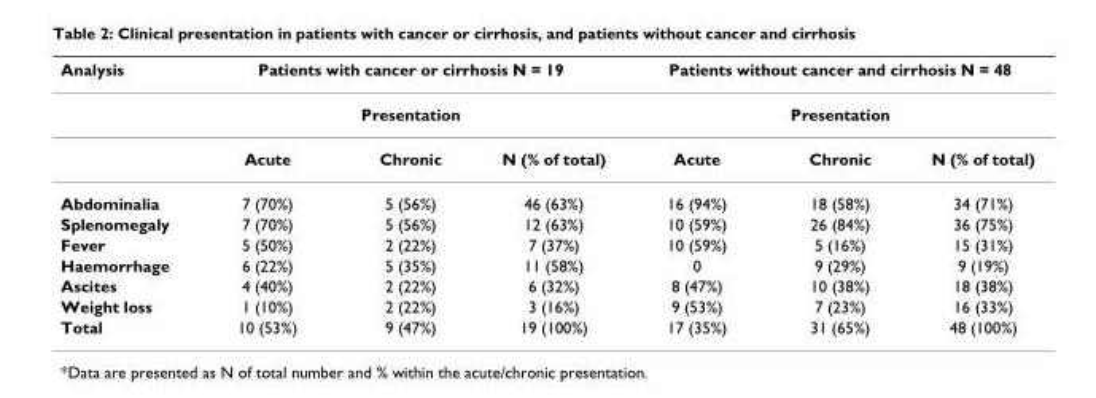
<table><thead><tr><td rowspan="3">Analysis</td><td rowspan="2" colspan="3">Patients with cancer or cirrhosis N = 19 Presentation</td><td rowspan="2" colspan="3">Patients without cancer and cirrhosis N = 48 Presentation</td></tr><tr></tr><tr><td>Acute</td><td>Chronic</td><td>N (% of total)</td><td>Acute</td><td>Chronic</td><td>N (% of total)</td></tr></thead><tbody><tr><td>Abdominalia</td><td>7 (70%)</td><td>5 (56%)</td><td>46 (63%)</td><td>16 (94%)</td><td>18 (58%)</td><td>34 (71%)</td></tr><tr><td>Splenomegaly</td><td>7 (70%)</td><td>5 (56%)</td><td>12 (63%)</td><td>10 (59%)</td><td>26 (84%)</td><td>36 (75%)</td></tr><tr><td>Fever</td><td>5 (50%)</td><td>2 (22%)</td><td>7 (37%)</td><td>10 (59%)</td><td>5 (16%)</td><td>15 (31%)</td></tr><tr><td>Haemorrhage</td><td>6 (22%)</td><td>5 (35%)</td><td>11 (58%)</td><td>0</td><td>9 (29%)</td><td>9 (19%)</td></tr><tr><td>Ascites</td><td>4 (40%)</td><td>2 (22%)</td><td>6 (32%)</td><td>8 (47%)</td><td>10 (38%)</td><td>18 (38%)</td></tr><tr><td>Weight loss</td><td>1 (10%)</td><td>2 (22%)</td><td>3 (16%)</td><td>9 (53%)</td><td>7 (23%)</td><td>16 (33%)</td></tr><tr><td>Total</td><td>10 (53%)</td><td>9 (47%)</td><td>19 (100%)</td><td>17 (35%)</td><td>31 (65%)</td><td>48 (100%)</td></tr></tbody></table>